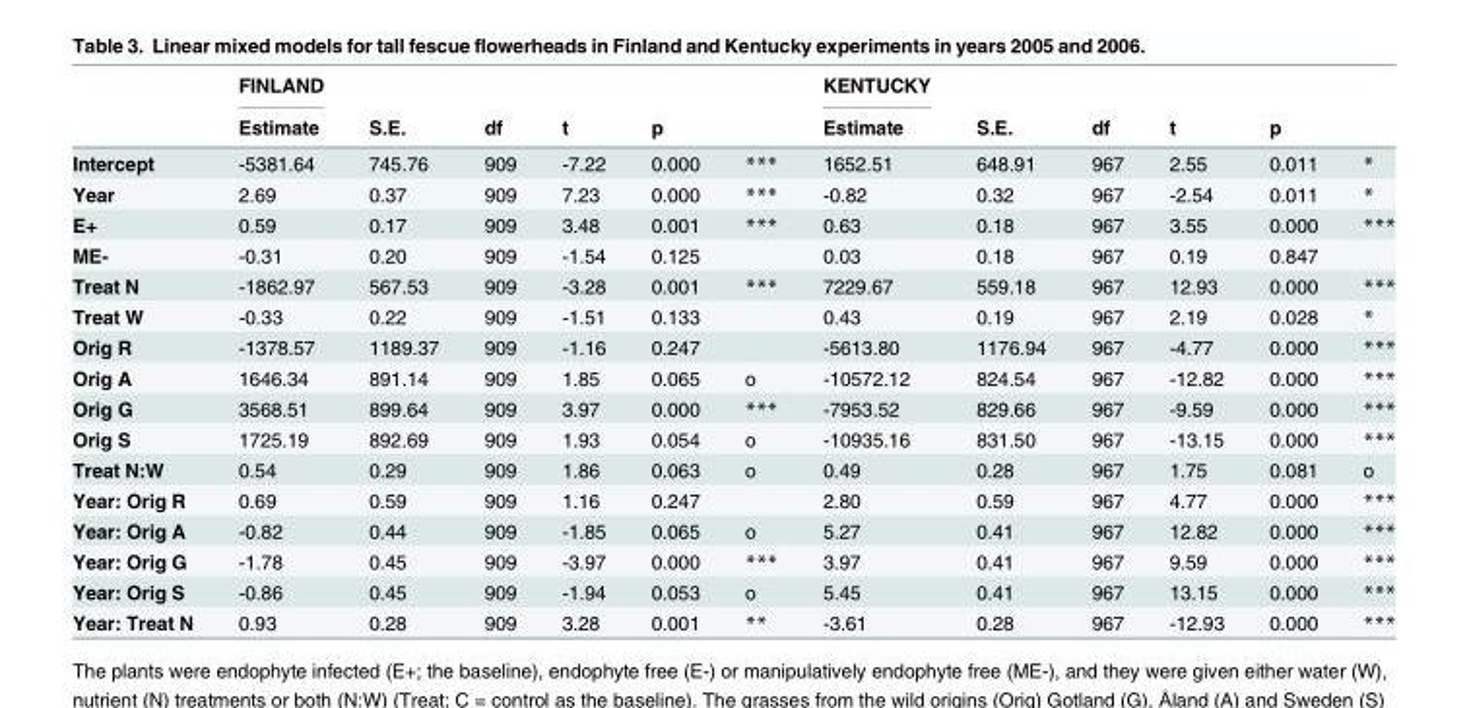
<table><thead><tr><td rowspan="2"></td><td rowspan="2">FINLAND Estimate</td><td rowspan="2">S.E.</td><td rowspan="2">df</td><td rowspan="2">t</td><td rowspan="2">p</td><td rowspan="2"></td><td rowspan="2">KENTUCKY Estimate</td><td rowspan="2">S.E.</td><td rowspan="2">df</td><td rowspan="2">t</td><td rowspan="2">p</td><td rowspan="2"></td></tr><tr></tr></thead><tbody><tr><td>Intercept</td><td>-5381.64</td><td>745.76</td><td>909</td><td>-7.22</td><td>0.000</td><td>***</td><td>1652.51</td><td>648.91</td><td>967</td><td>2.55</td><td>0.011</td><td>*</td></tr><tr><td>Year</td><td>2.69</td><td>0.37</td><td>909</td><td>7.23</td><td>0.000</td><td>***</td><td>-0.82</td><td>0.32</td><td>967</td><td>-2.54</td><td>0.011</td><td>*</td></tr><tr><td>E+</td><td>0.59</td><td>0.17</td><td>909</td><td>3.48</td><td>0.001</td><td>***</td><td>0.63</td><td>0.18</td><td>967</td><td>3.55</td><td>0.000</td><td>***</td></tr><tr><td>ME-</td><td>-0.31</td><td>0.20</td><td>909</td><td>-1.54</td><td>0.125</td><td></td><td>0.03</td><td>0.18</td><td>967</td><td>0.19</td><td>0.847</td><td></td></tr><tr><td>Treat N</td><td>-1862.97</td><td>567.53</td><td>909</td><td>-3.28</td><td>0.001</td><td>***</td><td>7229.67</td><td>559.18</td><td>967</td><td>12.93</td><td>0.000</td><td>***</td></tr><tr><td>Treat W</td><td>-0.33</td><td>0.22</td><td>909</td><td>-1.51</td><td>0.133</td><td></td><td>0.43</td><td>0.19</td><td>967</td><td>2.19</td><td>0.028</td><td>*</td></tr><tr><td>Orig R</td><td>-1378.57</td><td>1189.37</td><td>909</td><td>-1.16</td><td>0.247</td><td></td><td>-5613.80</td><td>1176.94</td><td>967</td><td>-4.77</td><td>0.000</td><td>***</td></tr><tr><td>Orig A</td><td>1646.34</td><td>891.14</td><td>909</td><td>1.85</td><td>0.065</td><td>o</td><td>-10572.12</td><td>824.54</td><td>967</td><td>-12.82</td><td>0.000</td><td>***</td></tr><tr><td>Orig G</td><td>3568.51</td><td>899.64</td><td>909</td><td>3.97</td><td>0.000</td><td>***</td><td>-7953.52</td><td>829.66</td><td>967</td><td>-9.59</td><td>0.000</td><td>***</td></tr><tr><td>Orig S</td><td>1725.19</td><td>892.69</td><td>909</td><td>1.93</td><td>0.054</td><td>o</td><td>-10935.16</td><td>831.50</td><td>967</td><td>-13.15</td><td>0.000</td><td>***</td></tr><tr><td>Treat N:W</td><td>0.54</td><td>0.29</td><td>909</td><td>1.86</td><td>0.063</td><td>o</td><td>0.49</td><td>0.28</td><td>967</td><td>1.75</td><td>0.081</td><td>o</td></tr><tr><td>Year: Orig R</td><td>0.69</td><td>0.59</td><td>909</td><td>1.16</td><td>0.247</td><td></td><td>2.80</td><td>0.59</td><td>967</td><td>4.77</td><td>0.000</td><td>***</td></tr><tr><td>Year: Orig A</td><td>-0.82</td><td>0.44</td><td>909</td><td>-1.85</td><td>0.065</td><td>o</td><td>5.27</td><td>0.41</td><td>967</td><td>12.82</td><td>0.000</td><td>***</td></tr><tr><td>Year: Orig G</td><td>-1.78</td><td>0.45</td><td>909</td><td>-3.97</td><td>0.000</td><td>***</td><td>3.97</td><td>0.41</td><td>967</td><td>9.59</td><td>0.000</td><td>***</td></tr><tr><td>Year: Orig S</td><td>-0.86</td><td>0.45</td><td>909</td><td>-1.94</td><td>0.053</td><td>o</td><td>5.45</td><td>0.41</td><td>967</td><td>13.15</td><td>0.000</td><td>***</td></tr><tr><td>Year: Treat N</td><td>0.93</td><td>0.28</td><td>909</td><td>3.28</td><td>0.001</td><td>**</td><td>-3.61</td><td>0.28</td><td>967</td><td>-12.93</td><td>0.000</td><td>***</td></tr></tbody></table>